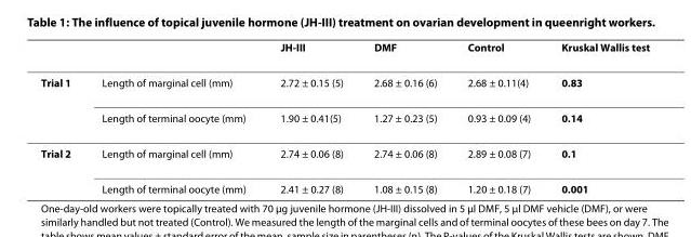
<table><thead><tr><td></td><td></td><td>JH-III</td><td>DMF</td><td>Control</td><td>Kruskal Wallis test</td></tr></thead><tbody><tr><td rowspan="2">Trial 1</td><td>Length of marginal cell (mm)</td><td>2.72 ± 0.15 (5)</td><td>2.68 ± 0.16 (6)</td><td>2.68 ± 0.11(4)</td><td>0.83</td></tr><tr><td>Length of terminal oocyte (mm)</td><td>1.90 ± 0.41(5)</td><td>1.27 ± 0.23 (5)</td><td>0.93 ± 0.09 (4)</td><td>0.14</td></tr><tr><td rowspan="2">Trial 2</td><td>Length of marginal cell (mm)</td><td>2.74 ± 0.06 (8)</td><td>2.74 ± 0.06 (8)</td><td>2.89 ± 0.08 (7)</td><td>0.1</td></tr><tr><td>Length of terminal oocyte (mm)</td><td>2.41 ± 0.27 (8)</td><td>1.08 ± 0.15 (8)</td><td>1.20 ± 0.18 (7)</td><td>0.001</td></tr></tbody></table>